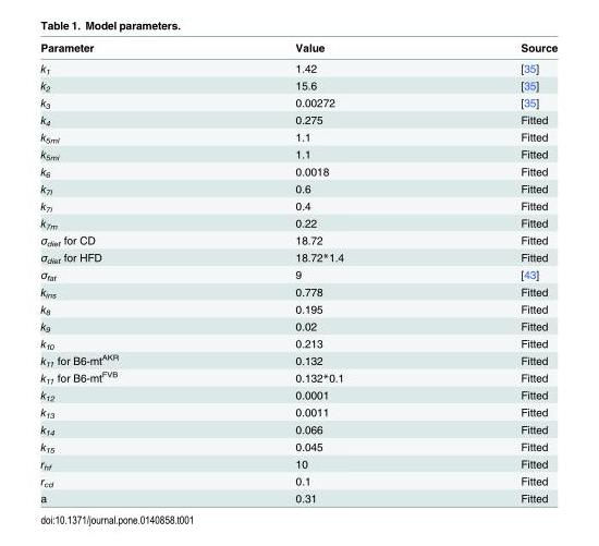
<table><thead><tr><td>Parameter</td><td>Value</td><td>Source</td></tr></thead><tbody><tr><td>k<sub>1</sub></td><td>1.42</td><td>[35]</td></tr><tr><td>k<sub>2</sub></td><td>15.6</td><td>[35]</td></tr><tr><td>k<sub>3</sub></td><td>0.00272</td><td>[35]</td></tr><tr><td>k<sub>4</sub></td><td>0.275</td><td>Fitted</td></tr><tr><td>k<sub>5ml</sub></td><td>1.1</td><td>Fitted</td></tr><tr><td>k<sub>5mi</sub></td><td>1.1</td><td>Fitted</td></tr><tr><td>k<sub>6</sub></td><td>0.0018</td><td>Fitted</td></tr><tr><td>k<sub>7l</sub></td><td>0.6</td><td>Fitted</td></tr><tr><td>k<sub>7i</sub></td><td>0.4</td><td>Fitted</td></tr><tr><td>k<sub>7m</sub></td><td>0.22</td><td>Fitted</td></tr><tr><td>σ<sub>diet</sub> for CD</td><td>18.72</td><td>Fitted</td></tr><tr><td>σ<sub>diet</sub> for HFD</td><td>18.72*1.4</td><td>Fitted</td></tr><tr><td>σ<sub>fat</sub></td><td>9</td><td>[43]</td></tr><tr><td>k<sub>ins</sub></td><td>0.778</td><td>Fitted</td></tr><tr><td>k<sub>8</sub></td><td>0.195</td><td>Fitted</td></tr><tr><td>k<sub>9</sub></td><td>0.02</td><td>Fitted</td></tr><tr><td>k<sub>10</sub></td><td>0.213</td><td>Fitted</td></tr><tr><td>k<sub>11</sub> for B6-mt<sup>AKR</sup></td><td>0.132</td><td>Fitted</td></tr><tr><td>k<sub>11</sub> for B6-mt<sup>FVB</sup></td><td>0.132*0.1</td><td>Fitted</td></tr><tr><td>k<sub>12</sub></td><td>0.0001</td><td>Fitted</td></tr><tr><td>k<sub>13</sub></td><td>0.0011</td><td>Fitted</td></tr><tr><td>k<sub>14</sub></td><td>0.066</td><td>Fitted</td></tr><tr><td>k<sub>15</sub></td><td>0.045</td><td>Fitted</td></tr><tr><td>r<sub>hf</sub></td><td>10</td><td>Fitted</td></tr><tr><td>r<sub>cd</sub></td><td>0.1</td><td>Fitted</td></tr><tr><td>a</td><td>0.31</td><td>Fitted</td></tr></tbody></table>